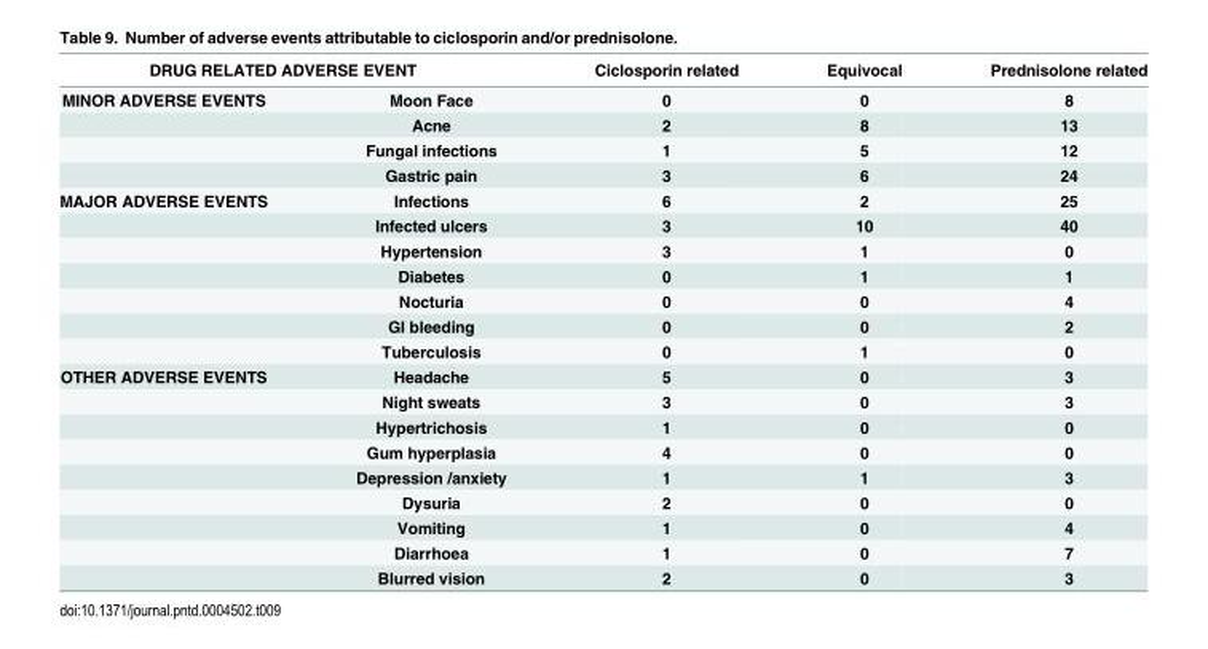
<table><thead><tr><td colspan="2">DRUG RELATED ADVERSE EVENT</td><td rowspan="2">Ciclosporin related 0</td><td rowspan="2">Equivocal 0</td><td rowspan="2">Prednisolone related 8</td></tr><tr><td>MINOR ADVERSE EVENTS</td><td>Moon Face</td></tr></thead><tbody><tr><td></td><td>Acne</td><td>2</td><td>8</td><td>13</td></tr><tr><td></td><td>Fungal infections</td><td>1</td><td>5</td><td>12</td></tr><tr><td></td><td>Gastric pain</td><td>3</td><td>6</td><td>24</td></tr><tr><td rowspan="7">MAJOR ADVERSE EVENTS</td><td>Infections</td><td>6</td><td>2</td><td>25</td></tr><tr><td>Infected ulcers</td><td>3</td><td>10</td><td>40</td></tr><tr><td>Hypertension</td><td>3</td><td>1</td><td>0</td></tr><tr><td>Diabetes</td><td>0</td><td>1</td><td>1</td></tr><tr><td>Nocturia</td><td>0</td><td>0</td><td>4</td></tr><tr><td>GI bleeding</td><td>0</td><td>0</td><td>2</td></tr><tr><td>Tuberculosis</td><td>0</td><td>1</td><td>0</td></tr><tr><td rowspan="9">OTHER ADVERSE EVENTS</td><td>Headache</td><td>5</td><td>0</td><td>3</td></tr><tr><td>Night sweats</td><td>3</td><td>0</td><td>3</td></tr><tr><td>Hypertrichosis</td><td>1</td><td>0</td><td>0</td></tr><tr><td>Gum hyperplasia</td><td>4</td><td>0</td><td>0</td></tr><tr><td>Depression /anxiety</td><td>1</td><td>1</td><td>3</td></tr><tr><td>Dysuria</td><td>2</td><td>0</td><td>0</td></tr><tr><td>Vomiting</td><td>1</td><td>0</td><td>4</td></tr><tr><td>Diarrhoea</td><td>1</td><td>0</td><td>7</td></tr><tr><td>Blurred vision</td><td>2</td><td>0</td><td>3</td></tr></tbody></table>